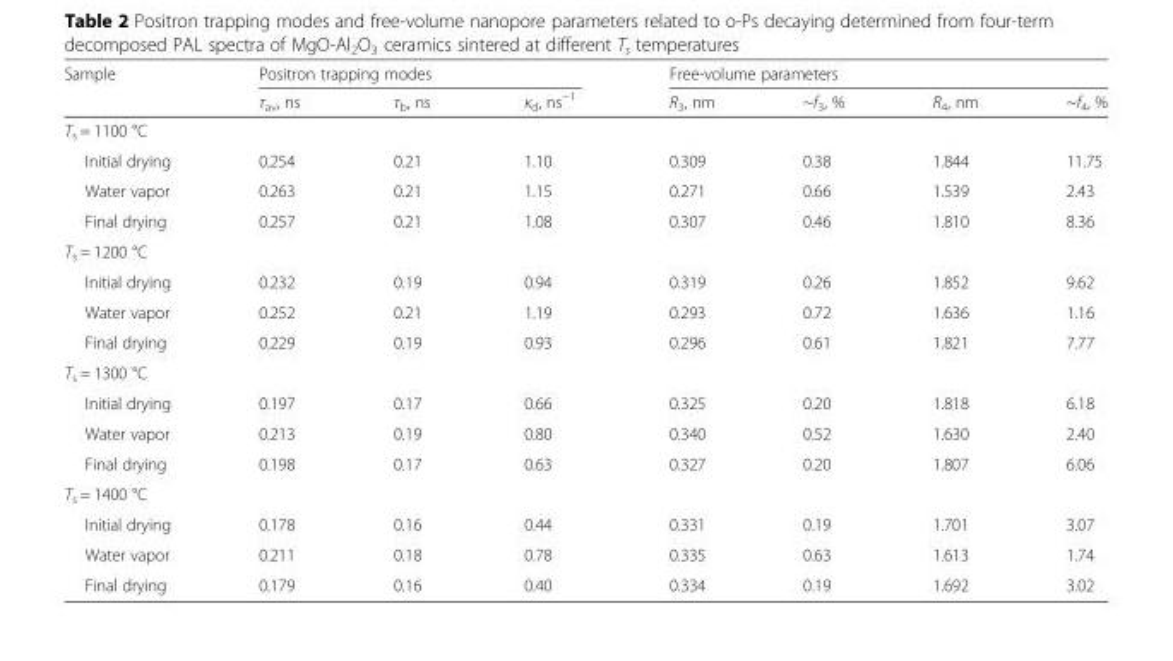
<table><thead><tr><td rowspan="2">Sample</td><td colspan="3">Positron trapping modes</td><td colspan="4">Free-volume parameters</td></tr><tr><td>τ<sub>av</sub>, ns</td><td>τ<sub>b</sub>, ns</td><td>κ<sub>d</sub>, ns<sup>−1</sup></td><td>R<sub>3</sub>, nm</td><td>~f<sub>3</sub>, %</td><td>R<sub>4</sub>, nm</td><td>~f<sub>4</sub>, %</td></tr></thead><tbody><tr><td colspan="8">T<sub>s</sub> = 1100 °C</td></tr><tr><td>Initial drying</td><td>0.254</td><td>0.21</td><td>1.10</td><td>0.309</td><td>0.38</td><td>1.844</td><td>11.75</td></tr><tr><td>Water vapor</td><td>0.263</td><td>0.21</td><td>1.15</td><td>0.271</td><td>0.66</td><td>1.539</td><td>2.43</td></tr><tr><td>Final drying</td><td>0.257</td><td>0.21</td><td>1.08</td><td>0.307</td><td>0.46</td><td>1.810</td><td>8.36</td></tr><tr><td colspan="8">T<sub>s</sub> = 1200 °C</td></tr><tr><td>Initial drying</td><td>0.232</td><td>0.19</td><td>0.94</td><td>0.319</td><td>0.26</td><td>1.852</td><td>9.62</td></tr><tr><td>Water vapor</td><td>0.252</td><td>0.21</td><td>1.19</td><td>0.293</td><td>0.72</td><td>1.636</td><td>1.16</td></tr><tr><td>Final drying</td><td>0.229</td><td>0.19</td><td>0.93</td><td>0.296</td><td>0.61</td><td>1.821</td><td>7.77</td></tr><tr><td colspan="8">T<sub>s</sub> = 1300 °C</td></tr><tr><td>Initial drying</td><td>0.197</td><td>0.17</td><td>0.66</td><td>0.325</td><td>0.20</td><td>1.818</td><td>6.18</td></tr><tr><td>Water vapor</td><td>0.213</td><td>0.19</td><td>0.80</td><td>0.340</td><td>0.52</td><td>1.630</td><td>2.40</td></tr><tr><td>Final drying</td><td>0.198</td><td>0.17</td><td>0.63</td><td>0.327</td><td>0.20</td><td>1.807</td><td>6.06</td></tr><tr><td colspan="8">T<sub>s</sub> = 1400 °C</td></tr><tr><td>Initial drying</td><td>0.178</td><td>0.16</td><td>0.44</td><td>0.331</td><td>0.19</td><td>1.701</td><td>3.07</td></tr><tr><td>Water vapor</td><td>0.211</td><td>0.18</td><td>0.78</td><td>0.335</td><td>0.63</td><td>1.613</td><td>1.74</td></tr><tr><td>Final drying</td><td>0.179</td><td>0.16</td><td>0.40</td><td>0.334</td><td>0.19</td><td>1.692</td><td>3.02</td></tr></tbody></table>